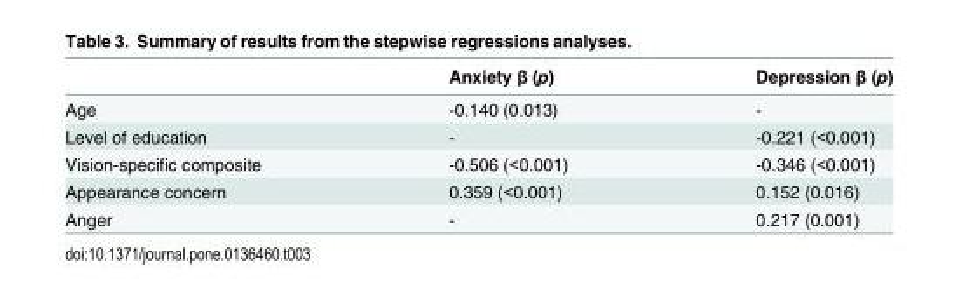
<table><thead><tr><td></td><td>Anxiety β (p)</td><td>Depression β (p)</td></tr></thead><tbody><tr><td>Age</td><td>-0.140 (0.013)</td><td>-</td></tr><tr><td>Level of education</td><td>-</td><td>-0.221 (&lt;0.001)</td></tr><tr><td>Vision-specific composite</td><td>-0.506 (&lt;0.001)</td><td>-0.346 (&lt;0.001)</td></tr><tr><td>Appearance concern</td><td>0.359 (&lt;0.001)</td><td>0.152 (0.016)</td></tr><tr><td>Anger</td><td>-</td><td>0.217 (0.001)</td></tr></tbody></table>